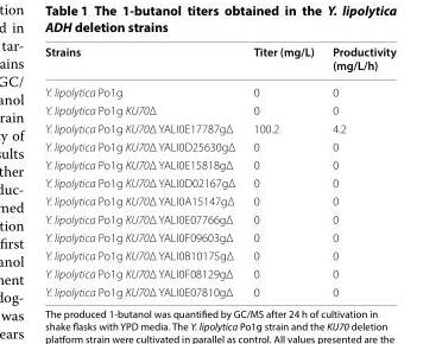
<table><thead><tr><td>Strains</td><td>Titer (mg/L)</td><td>Productivity (mg/L/h)</td></tr></thead><tbody><tr><td>Y. lipolytica Po1g</td><td>0</td><td>0</td></tr><tr><td>Y. lipolytica Po1g KU70Δ</td><td>0</td><td>0</td></tr><tr><td>Y. lipolytica Po1g KU70Δ YALI0E17787gΔ</td><td>100.2</td><td>4.2</td></tr><tr><td>Y. lipolytica Po1g KU70Δ YALI0D25630gΔ</td><td>0</td><td>0</td></tr><tr><td>Y. lipolytica Po1g KU70Δ YALI0E15818gΔ</td><td>0</td><td>0</td></tr><tr><td>Y. lipolytica Po1g KU70Δ YALI0D02167gΔ</td><td>0</td><td>0</td></tr><tr><td>Y. lipolytica Po1g KU70Δ YALI0A15147gΔ</td><td>0</td><td>0</td></tr><tr><td>Y. lipolytica Po1g KU70Δ YALI0E07766gΔ</td><td>0</td><td>0</td></tr><tr><td>Y. lipolytica Po1g KU70Δ YALI0F09603gΔ</td><td>0</td><td>0</td></tr><tr><td>Y. lipolytica Po1g KU70Δ YALI0B10175gΔ</td><td>0</td><td>0</td></tr><tr><td>Y. lipolytica Po1g KU70Δ YALI0F08129gΔ</td><td>0</td><td>0</td></tr><tr><td>Y. lipolytica Po1g KU70Δ YALI0E07810gΔ</td><td>0</td><td>0</td></tr></tbody></table>